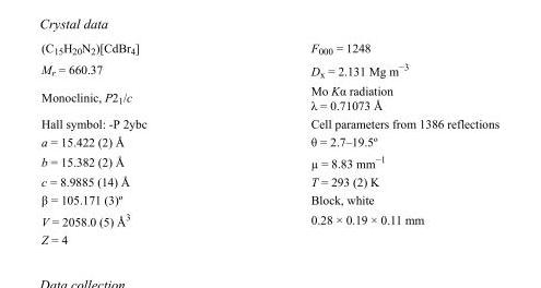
<table><tbody><tr><td>(C<sub>15</sub>H<sub>20</sub>N<sub>2</sub>)[CdBr<sub>4</sub>]</td><td>F000 = 1248</td></tr><tr><td>M<sub>r</sub> = 660.37</td><td>D<sub>x</sub> = 2.131 Mg m<sup>−3</sup></td></tr><tr><td>Monoclinic, P2<sub>1</sub>/c</td><td>Mo Kα radiation λ = 0.71073 Å</td></tr><tr><td>Hall symbol: -P 2ybc</td><td>Cell parameters from 1386 reflections</td></tr><tr><td>a = 15.422 (2) Å</td><td>θ = 2.7–19.5º</td></tr><tr><td>b = 15.382 (2) Å</td><td>µ = 8.83 mm<sup>−1</sup></td></tr><tr><td>c = 8.9885 (14) Å</td><td>T = 293 (2) K</td></tr><tr><td>β = 105.171 (3)º</td><td>Block, white</td></tr><tr><td>V = 2058.0 (5) Å<sup>3</sup></td><td>0.28 × 0.19 × 0.11 mm</td></tr><tr><td>Z = 4</td><td></td></tr></tbody></table>